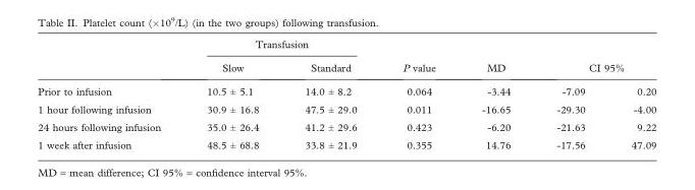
<table><thead><tr><td rowspan="2"></td><td colspan="2">Transfusion</td><td rowspan="2">P value</td><td rowspan="2">MD</td><td></td><td></td></tr><tr><td>Slow</td><td>Standard</td><td colspan="2">CI 95%</td></tr></thead><tbody><tr><td>Prior to infusion</td><td>10.5 ± 5.1</td><td>14.0 ± 8.2</td><td>0.064</td><td>-3.44</td><td>-7.09</td><td>0.20</td></tr><tr><td>1 hour following infusion</td><td>30.9 ± 16.8</td><td>47.5 ± 29.0</td><td>0.011</td><td>-16.65</td><td>-29.30</td><td>-4.00</td></tr><tr><td>24 hours following infusion</td><td>35.0 ± 26.4</td><td>41.2 ± 29.6</td><td>0.423</td><td>-6.20</td><td>-21.63</td><td>9.22</td></tr><tr><td>1 week after infusion</td><td>48.5 ± 68.8</td><td>33.8 ± 21.9</td><td>0.355</td><td>14.76</td><td>-17.56</td><td>47.09</td></tr></tbody></table>